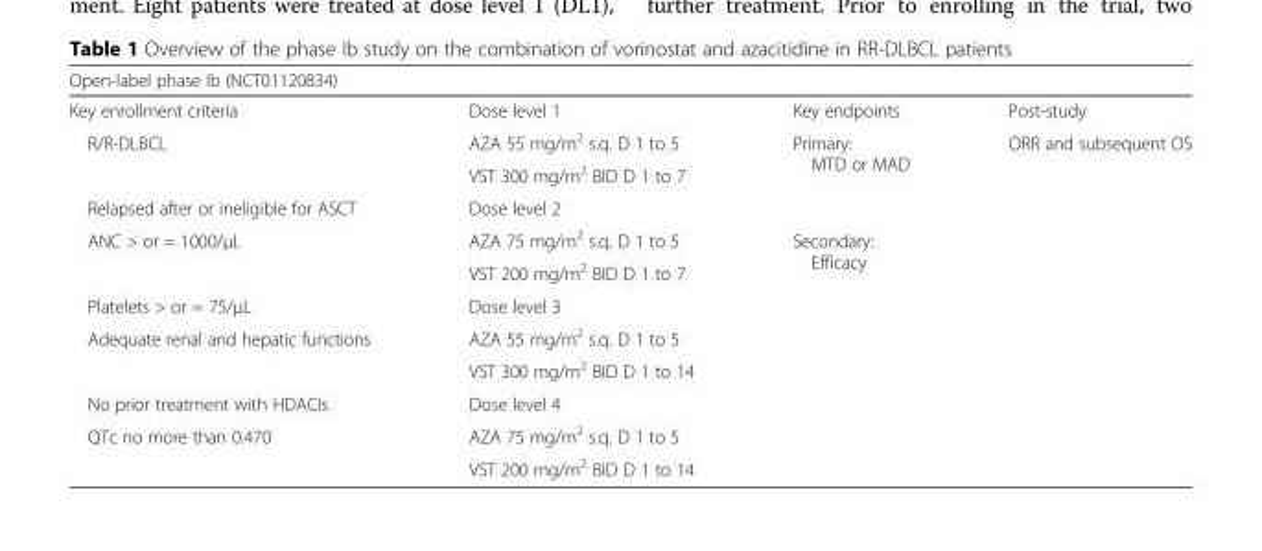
<table><thead><tr><td colspan="4">Open-label phase Ib (NCT01120834)</td></tr><tr><td>Key enrollment criteria</td><td>Dose level 1</td><td>Key endpoints</td><td>Post-study</td></tr></thead><tbody><tr><td rowspan="2">R/R-DLBCL</td><td>AZA 55 mg/m<sup>2</sup> s.q. D 1 to 5</td><td rowspan="3">Primary: MTD or MAD</td><td rowspan="2">ORR and subsequent OS</td></tr><tr><td>VST 300 mg/m<sup>2</sup> BID D 1 to 7</td></tr><tr><td>Relapsed after or ineligible for ASCT</td><td>Dose level 2</td><td></td></tr><tr><td rowspan="2">ANC &gt; or = 1000/μL</td><td>AZA 75 mg/m<sup>2</sup> s.q. D 1 to 5</td><td rowspan="3">Secondary: Efficacy</td><td rowspan="2"></td></tr><tr><td>VST 200 mg/m<sup>2</sup> BID D 1 to 7</td></tr><tr><td>Platelets &gt; or = 75/μL</td><td>Dose level 3</td><td></td></tr><tr><td rowspan="2">Adequate renal and hepatic functions</td><td>AZA 55 mg/m<sup>2</sup> s.q. D 1 to 5</td><td rowspan="2"></td><td rowspan="2"></td></tr><tr><td>VST 300 mg/m<sup>2</sup> BID D 1 to 14</td></tr><tr><td>No prior treatment with HDACIs</td><td>Dose level 4</td><td></td><td></td></tr><tr><td rowspan="2">QTc no more than 0.470</td><td>AZA 75 mg/m<sup>2</sup> s.q. D 1 to 5</td><td rowspan="2"></td><td rowspan="2"></td></tr><tr><td>VST 200 mg/m<sup>2</sup> BID D 1 to 14</td></tr></tbody></table>